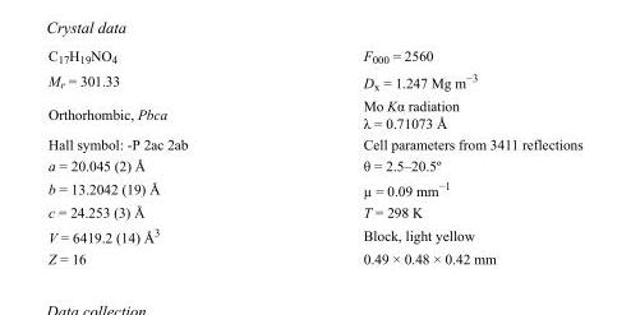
<table><tbody><tr><td>C<sub>17</sub>H<sub>19</sub>NO<sub>4</sub></td><td>F000 = 2560</td></tr><tr><td>M<sub>r</sub> = 301.33</td><td>D<sub>x</sub> = 1.247 Mg m<sup>−3</sup></td></tr><tr><td>Orthorhombic, Pbca</td><td>Mo Kα radiation λ = 0.71073 Å</td></tr><tr><td>Hall symbol: -P 2ac 2ab</td><td>Cell parameters from 3411 reflections</td></tr><tr><td>a = 20.045 (2) Å</td><td>θ = 2.5–20.5º</td></tr><tr><td>b = 13.2042 (19) Å</td><td>µ = 0.09 mm<sup>−1</sup></td></tr><tr><td>c = 24.253 (3) Å</td><td>T = 298 K</td></tr><tr><td>V = 6419.2 (14) Å<sup>3</sup></td><td>Block, light yellow</td></tr><tr><td>Z = 16</td><td>0.49 × 0.48 × 0.42 mm</td></tr></tbody></table>